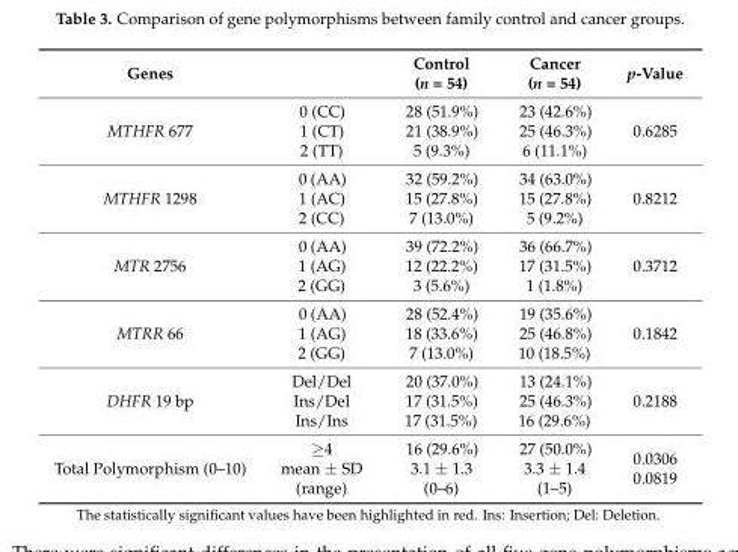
<table><thead><tr><td>Genes</td><td></td><td>Control (n = 54)</td><td>Cancer (n = 54)</td><td>p-Value</td></tr></thead><tbody><tr><td>MTHFR 677</td><td>0 (CC) 1 (CT) 2 (TT)</td><td>28 (51.9%) 21 (38.9%) 5 (9.3%)</td><td>23 (42.6%) 25 (46.3%) 6 (11.1%)</td><td>0.6285</td></tr><tr><td>MTHFR 1298</td><td>0 (AA) 1 (AC) 2 (CC)</td><td>32 (59.2%) 15 (27.8%) 7 (13.0%)</td><td>34 (63.0%) 15 (27.8%) 5 (9.2%)</td><td>0.8212</td></tr><tr><td>MTR 2756</td><td>0 (AA) 1 (AG) 2 (GG)</td><td>39 (72.2%) 12 (22.2%) 3 (5.6%)</td><td>36 (66.7%) 17 (31.5%) 1 (1.8%)</td><td>0.3712</td></tr><tr><td>MTRR 66</td><td>0 (AA) 1 (AG) 2 (GG)</td><td>28 (52.4%) 18 (33.6%) 7 (13.0%)</td><td>19 (35.6%) 25 (46.8%) 10 (18.5%)</td><td>0.1842</td></tr><tr><td>DHFR 19 bp</td><td>Del/Del Ins/Del Ins/Ins</td><td>20 (37.0%) 17 (31.5%) 17 (31.5%)</td><td>13 (24.1%) 25 (46.3%) 16 (29.6%)</td><td>0.2188</td></tr><tr><td>Total Polymorphism (0–10)</td><td>≥4 mean ± SD (range)</td><td>16 (29.6%) 3.1 ± 1.3 (0–6)</td><td>27 (50.0%) 3.3 ± 1.4 (1–5)</td><td>0.0306 0.0819</td></tr></tbody></table>